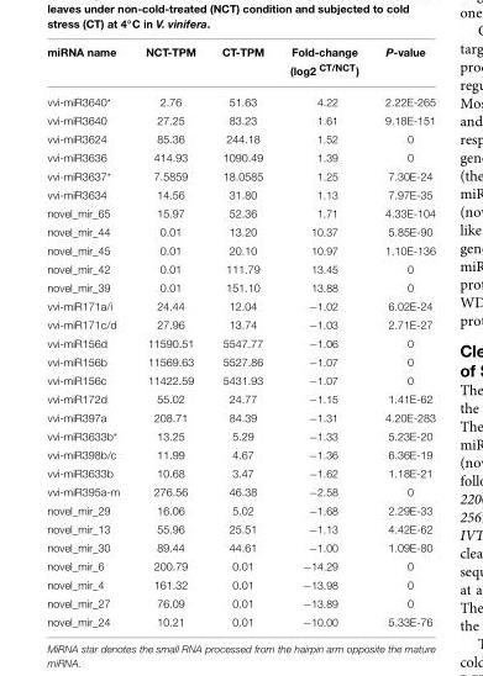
<table><thead><tr><td>miRNA name</td><td>NCT-TPM</td><td>CT-TPM</td><td>Fold-change (log2 CT/NCT)</td><td>P-value</td></tr></thead><tbody><tr><td>vvi-miR3640*</td><td>2.76</td><td>51.63</td><td>4.22</td><td>2.22E-265</td></tr><tr><td>vvi-miR3640</td><td>27.25</td><td>83.23</td><td>1.61</td><td>9.18E-151</td></tr><tr><td>vvi-miR3624</td><td>85.36</td><td>244.18</td><td>1.52</td><td>0</td></tr><tr><td>vvi-miR3636</td><td>414.93</td><td>1090.49</td><td>1.39</td><td>0</td></tr><tr><td>vvi-miR3637*</td><td>7.5859</td><td>18.0585</td><td>1.25</td><td>7.30E-24</td></tr><tr><td>vvi-miR3634</td><td>14.56</td><td>31.80</td><td>1.13</td><td>7.97E-35</td></tr><tr><td>novel_mir_65</td><td>15.97</td><td>52.36</td><td>1.71</td><td>4.33E-104</td></tr><tr><td>novel_mir_44</td><td>0.01</td><td>13.20</td><td>10.37</td><td>5.85E-90</td></tr><tr><td>novel_mir_45</td><td>0.01</td><td>20.10</td><td>10.97</td><td>1.10E-136</td></tr><tr><td>novel_mir_42</td><td>0.01</td><td>111.79</td><td>13.45</td><td>0</td></tr><tr><td>novel_mir_39</td><td>0.01</td><td>151.10</td><td>13.88</td><td>0</td></tr><tr><td>vvi-miR171a/i</td><td>24.44</td><td>12.04</td><td>−1.02</td><td>6.02E-24</td></tr><tr><td>vvi-miR171c/d</td><td>27.96</td><td>13.74</td><td>−1.03</td><td>2.71E-27</td></tr><tr><td>vvi-miR156d</td><td>11590.51</td><td>5547.77</td><td>−1.06</td><td>0</td></tr><tr><td>vvi-miR156b</td><td>11569.63</td><td>5527.86</td><td>−1.07</td><td>0</td></tr><tr><td>vvi-miR156c</td><td>11422.59</td><td>5431.93</td><td>−1.07</td><td>0</td></tr><tr><td>vvi-miR172d</td><td>55.02</td><td>24.77</td><td>−1.15</td><td>1.41E-62</td></tr><tr><td>vvi-miR397a</td><td>208.71</td><td>84.39</td><td>−1.31</td><td>4.20E-283</td></tr><tr><td>vvi-miR3633b*</td><td>13.25</td><td>5.29</td><td>−1.33</td><td>5.23E-20</td></tr><tr><td>vvi-miR398b/c</td><td>11.99</td><td>4.67</td><td>−1.36</td><td>6.36E-19</td></tr><tr><td>vvi-miR3633b</td><td>10.68</td><td>3.47</td><td>−1.62</td><td>1.18E-21</td></tr><tr><td>vvi-miR395a-m</td><td>276.56</td><td>46.38</td><td>−2.58</td><td>0</td></tr><tr><td>novel_mir_29</td><td>16.06</td><td>5.02</td><td>−1.68</td><td>2.29E-33</td></tr><tr><td>novel_mir_13</td><td>55.96</td><td>25.51</td><td>−1.13</td><td>4.42E-62</td></tr><tr><td>novel_mir_30</td><td>89.44</td><td>44.61</td><td>−1.00</td><td>1.09E-80</td></tr><tr><td>novel_mir_6</td><td>200.79</td><td>0.01</td><td>−14.29</td><td>0</td></tr><tr><td>novel_mir_4</td><td>161.32</td><td>0.01</td><td>−13.98</td><td>0</td></tr><tr><td>novel_mir_27</td><td>76.09</td><td>0.01</td><td>−13.89</td><td>0</td></tr><tr><td>novel_mir_24</td><td>10.21</td><td>0.01</td><td>−10.00</td><td>5.33E-76</td></tr></tbody></table>